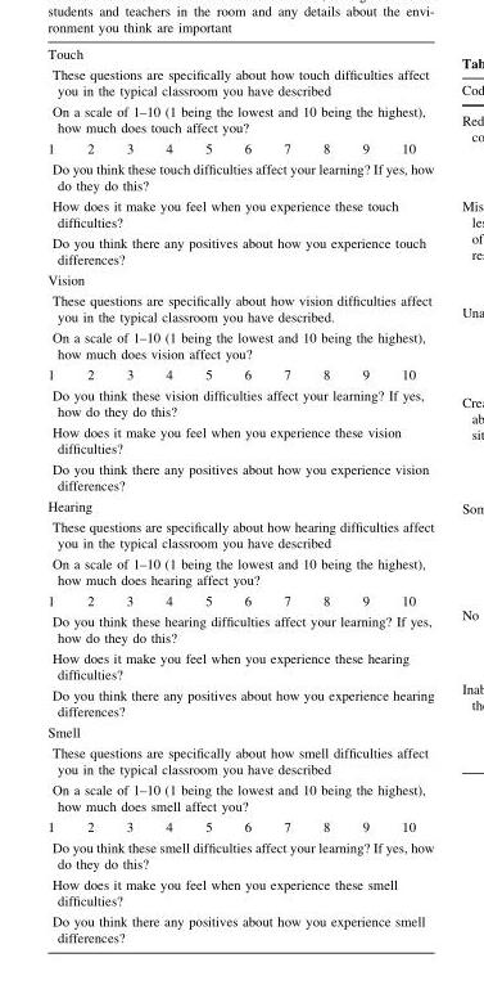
<table><tbody><tr><td colspan="10">Touch</td></tr><tr><td colspan="10">These questions are specifically about how touch difficulties affect you in the typical classroom you have described</td></tr><tr><td colspan="10">On a scale of 1–10 (1 being the lowest and 10 being the highest), how much does touch affect you?</td></tr><tr><td>1</td><td>2</td><td>3</td><td>4</td><td>5</td><td>6</td><td>7</td><td>8</td><td>9</td><td>10</td></tr><tr><td colspan="10">Do you think these touch difficulties affect your learning? If yes, how do they do this?</td></tr><tr><td colspan="10">How does it make you feel when you experience these touch difficulties?</td></tr><tr><td colspan="10">Do you think there any positives about how you experience touch differences?</td></tr><tr><td colspan="10">Vision</td></tr><tr><td colspan="10">These questions are specifically about how vision difficulties affect you in the typical classroom you have described.</td></tr><tr><td colspan="10">On a scale of 1–10 (1 being the lowest and 10 being the highest), how much does vision affect you?</td></tr><tr><td>1</td><td>2</td><td>3</td><td>4</td><td>5</td><td>6</td><td>7</td><td>8</td><td>9</td><td>10</td></tr><tr><td colspan="10">Do you think these vision difficulties affect your learning? If yes, how do they do this?</td></tr><tr><td colspan="10">How does it make you feel when you experience these vision difficulties?</td></tr><tr><td colspan="10">Do you think there any positives about how you experience vision differences?</td></tr><tr><td colspan="10">Hearing</td></tr><tr><td colspan="10">These questions are specifically about how hearing difficulties affect you in the typical classroom you have described</td></tr><tr><td colspan="10">On a scale of 1–10 (1 being the lowest and 10 being the highest), how much does hearing affect you?</td></tr><tr><td>1</td><td>2</td><td>3</td><td>4</td><td>5</td><td>6</td><td>7</td><td>8</td><td>9</td><td>10</td></tr><tr><td colspan="10">Do you think these hearing difficulties affect your learning? If yes, how do they do this?</td></tr><tr><td colspan="10">How does it make you feel when you experience these hearing difficulties?</td></tr><tr><td colspan="10">Do you think there any positives about how you experience hearing differences?</td></tr><tr><td colspan="10">Smell</td></tr><tr><td colspan="10">These questions are specifically about how smell difficulties affect you in the typical classroom you have described</td></tr><tr><td colspan="10">On a scale of 1–10 (1 being the lowest and 10 being the highest), how much does smell affect you?</td></tr><tr><td>1</td><td>2</td><td>3</td><td>4</td><td>5</td><td>6</td><td>7</td><td>8</td><td>9</td><td>10</td></tr><tr><td colspan="10">Do you think these smell difficulties affect your learning? If yes, how do they do this?</td></tr><tr><td colspan="10">How does it make you feel when you experience these smell difficulties?</td></tr><tr><td colspan="10">Do you think there any positives about how you experience smell differences?</td></tr></tbody></table>